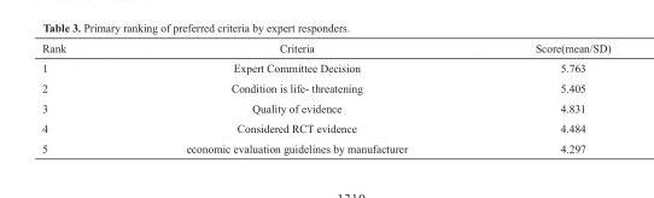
<table><thead><tr><td>Rank</td><td>Criteria</td><td>Score(mean/SD)</td></tr></thead><tbody><tr><td>1</td><td>Expert Committee Decision</td><td>5.763</td></tr><tr><td>2</td><td>Condition is life- threatening</td><td>5.405</td></tr><tr><td>3</td><td>Quality of evidence</td><td>4.831</td></tr><tr><td>4</td><td>Considered RCT evidence</td><td>4.484</td></tr><tr><td>5</td><td>economic evaluation guidelines by manufacturer</td><td>4.297</td></tr></tbody></table>